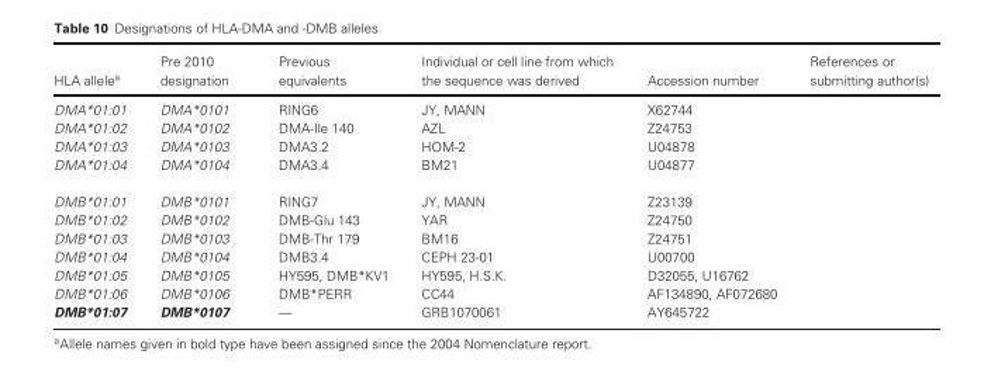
<table><thead><tr><td>HLA allele<sup>a</sup></td><td>Pre 2010 designation</td><td>Previous equivalents</td><td>Individual or cell line from which the sequence was derived</td><td>Accession number</td><td>References or submitting author(s)</td></tr></thead><tbody><tr><td>DMA*01:01</td><td>DMA*0101</td><td>RING6</td><td>JY, MANN</td><td>X62744</td><td></td></tr><tr><td>DMA*01:02</td><td>DMA*0102</td><td>DMA-Ile 140</td><td>AZL</td><td>Z24753</td><td></td></tr><tr><td>DMA*01:03</td><td>DMA*0103</td><td>DMA3.2</td><td>HOM-2</td><td>U04878</td><td></td></tr><tr><td>DMA*01:04</td><td>DMA*0104</td><td>DMA3.4</td><td>BM21</td><td>U04877</td><td></td></tr><tr><td>DMB*01:01</td><td>DMB*0101</td><td>RING7</td><td>JY, MANN</td><td>Z23139</td><td></td></tr><tr><td>DMB*01:02</td><td>DMB*0102</td><td>DMB-Glu 143</td><td>YAR</td><td>Z24750</td><td></td></tr><tr><td>DMB*01:03</td><td>DMB*0103</td><td>DMB-Thr 179</td><td>BM16</td><td>Z24751</td><td></td></tr><tr><td>DMB*01:04</td><td>DMB*0104</td><td>DMB3.4</td><td>CEPH 23-01</td><td>U00700</td><td></td></tr><tr><td>DMB*01:05</td><td>DMB*0105</td><td>HY595, DMB*KV1</td><td>HY595, H.S.K.</td><td>D32055, U16762</td><td></td></tr><tr><td>DMB*01:06</td><td>DMB*0106</td><td>DMB*PERR</td><td>CC44</td><td>AF134890, AF072680</td><td></td></tr><tr><td>DMB*01:07</td><td>DMB*0107</td><td>—</td><td>GRB1070061</td><td>AY645722</td><td></td></tr></tbody></table>